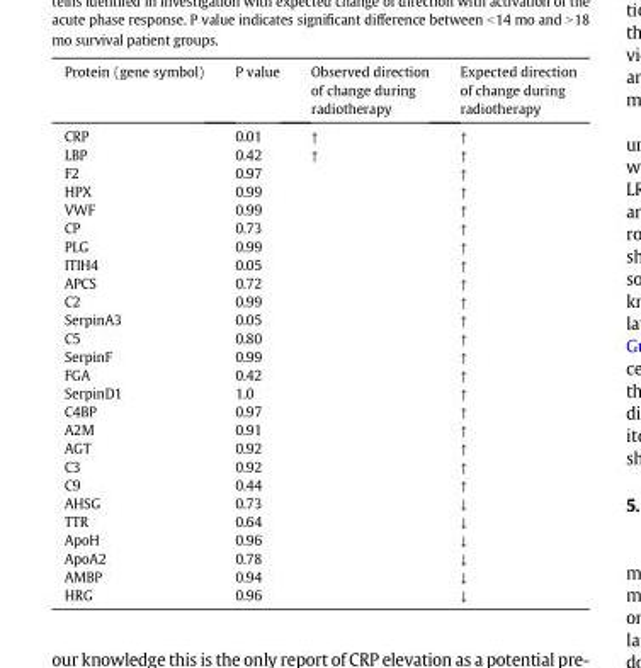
<table><thead><tr><td>Protein (gene symbol)</td><td>P value</td><td>Observed direction of change during radiotherapy</td><td>Expected direction of change during radiotherapy</td></tr></thead><tbody><tr><td>CRP</td><td>0.01</td><td>↑</td><td>↑</td></tr><tr><td>LBP</td><td>0.42</td><td>↑</td><td>↑</td></tr><tr><td>F2</td><td>0.97</td><td></td><td>↑</td></tr><tr><td>HPX</td><td>0.99</td><td></td><td>↑</td></tr><tr><td>VWF</td><td>0.99</td><td></td><td>↑</td></tr><tr><td>CP</td><td>0.73</td><td></td><td>↑</td></tr><tr><td>PLG</td><td>0.99</td><td></td><td>↑</td></tr><tr><td>ITIH4</td><td>0.05</td><td></td><td>↑</td></tr><tr><td>APCS</td><td>0.72</td><td></td><td>↑</td></tr><tr><td>C2</td><td>0.99</td><td></td><td>↑</td></tr><tr><td>SerpinA3</td><td>0.05</td><td></td><td>↑</td></tr><tr><td>C5</td><td>0.80</td><td></td><td>↑</td></tr><tr><td>SerpinF</td><td>0.99</td><td></td><td>↑</td></tr><tr><td>FGA</td><td>0.42</td><td></td><td>↑</td></tr><tr><td>SerpinD1</td><td>1.0</td><td></td><td>↑</td></tr><tr><td>C4BP</td><td>0.97</td><td></td><td>↑</td></tr><tr><td>A2M</td><td>0.91</td><td></td><td>↑</td></tr><tr><td>AGT</td><td>0.92</td><td></td><td>↑</td></tr><tr><td>C3</td><td>0.92</td><td></td><td>↑</td></tr><tr><td>C9</td><td>0.44</td><td></td><td>↑</td></tr><tr><td>AHSG</td><td>0.73</td><td></td><td>↓</td></tr><tr><td>TTR</td><td>0.64</td><td></td><td>↓</td></tr><tr><td>ApoH</td><td>0.96</td><td></td><td>↓</td></tr><tr><td>ApoA2</td><td>0.78</td><td></td><td>↓</td></tr><tr><td>AMBP</td><td>0.94</td><td></td><td>↓</td></tr><tr><td>HRG</td><td>0.96</td><td></td><td>↓</td></tr></tbody></table>